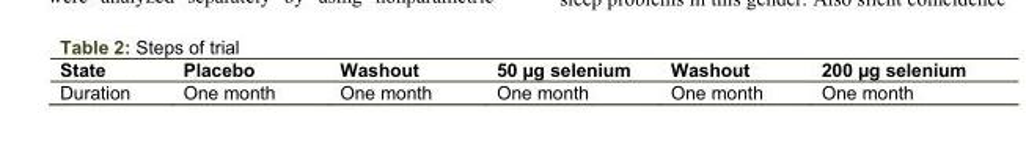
<table><thead><tr><td>State</td><td>Placebo</td><td>Washout</td><td>50 µg selenium</td><td>Washout</td><td>200 µg selenium</td></tr></thead><tbody><tr><td>Duration</td><td>One month</td><td>One month</td><td>One month</td><td>One month</td><td>One month</td></tr></tbody></table>